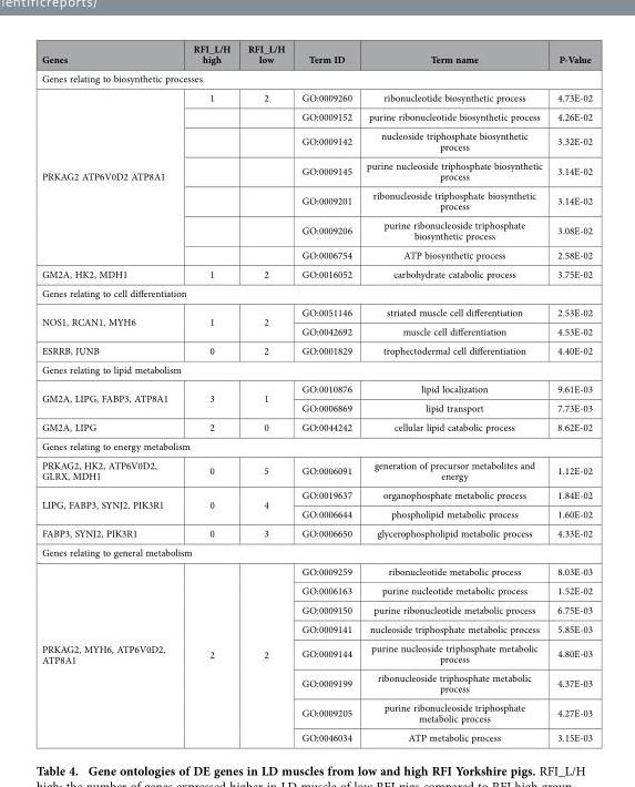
<table><thead><tr><td>Genes</td><td>RFI_L/H high</td><td>RFI_L/H low</td><td>Term ID</td><td>Term name</td><td>P-Value</td></tr></thead><tbody><tr><td colspan="6">Genes relating to biosynthetic processes</td></tr><tr><td rowspan="7">PRKAG2 ATP6V0D2 ATP8A1</td><td>1</td><td>2</td><td>GO:0009260</td><td>ribonucleotide biosynthetic process</td><td>4.73E-02</td></tr><tr><td></td><td></td><td>GO:0009152</td><td>purine ribonucleotide biosynthetic process</td><td>4.26E-02</td></tr><tr><td></td><td></td><td>GO:0009142</td><td>nucleoside triphosphate biosynthetic process</td><td>3.32E-02</td></tr><tr><td></td><td></td><td>GO:0009145</td><td>purine nucleoside triphosphate biosynthetic process</td><td>3.14E-02</td></tr><tr><td></td><td></td><td>GO:0009201</td><td>ribonucleoside triphosphate biosynthetic process</td><td>3.14E-02</td></tr><tr><td></td><td></td><td>GO:0009206</td><td>purine ribonucleoside triphosphate biosynthetic process</td><td>3.08E-02</td></tr><tr><td></td><td></td><td>GO:0006754</td><td>ATP biosynthetic process</td><td>2.58E-02</td></tr><tr><td>GM2A, HK2, MDH1</td><td>1</td><td>2</td><td>GO:0016052</td><td>carbohydrate catabolic process</td><td>3.75E-02</td></tr><tr><td colspan="6">Genes relating to cell differentiation</td></tr><tr><td rowspan="2">NOS1, RCAN1, MYH6</td><td rowspan="2">1</td><td rowspan="2">2</td><td>GO:0051146</td><td>striated muscle cell differentiation</td><td>2.53E-02</td></tr><tr><td>GO:0042692</td><td>muscle cell differentiation</td><td>4.53E-02</td></tr><tr><td>ESRRB, JUNB</td><td>0</td><td>2</td><td>GO:0001829</td><td>trophectodermal cell differentiation</td><td>4.40E-02</td></tr><tr><td colspan="6">Genes relating to lipid metabolism</td></tr><tr><td rowspan="2">GM2A, LIPG, FABP3, ATP8A1</td><td rowspan="2">3</td><td rowspan="2">1</td><td>GO:0010876</td><td>lipid localization</td><td>9.61E-03</td></tr><tr><td>GO:0006869</td><td>lipid transport</td><td>7.73E-03</td></tr><tr><td>GM2A, LIPG</td><td>2</td><td>0</td><td>GO:0044242</td><td>cellular lipid catabolic process</td><td>8.62E-02</td></tr><tr><td colspan="6">Genes relating to energy metabolism</td></tr><tr><td>PRKAG2, HK2, ATP6V0D2, GLRX, MDH1</td><td>0</td><td>5</td><td>GO:0006091</td><td>generation of precursor metabolites and energy</td><td>1.12E-02</td></tr><tr><td rowspan="2">LIPG, FABP3, SYNJ2, PIK3R1</td><td rowspan="2">0</td><td rowspan="2">4</td><td>GO:0019637</td><td>organophosphate metabolic process</td><td>1.84E-02</td></tr><tr><td>GO:0006644</td><td>phospholipid metabolic process</td><td>1.60E-02</td></tr><tr><td>FABP3, SYNJ2, PIK3R1</td><td>0</td><td>3</td><td>GO:0006650</td><td>glycerophospholipid metabolic process</td><td>4.33E-02</td></tr><tr><td colspan="6">Genes relating to general metabolism</td></tr><tr><td rowspan="8">PRKAG2, MYH6, ATP6V0D2, ATP8A1</td><td rowspan="8">2</td><td rowspan="8">2</td><td>GO:0009259</td><td>ribonucleotide metabolic process</td><td>8.03E-03</td></tr><tr><td>GO:0006163</td><td>purine nucleotide metabolic process</td><td>1.52E-02</td></tr><tr><td>GO:0009150</td><td>purine ribonucleotide metabolic process</td><td>6.75E-03</td></tr><tr><td>GO:0009141</td><td>nucleoside triphosphate metabolic process</td><td>5.85E-03</td></tr><tr><td>GO:0009144</td><td>purine nucleoside triphosphate metabolic process</td><td>4.80E-03</td></tr><tr><td>GO:0009199</td><td>ribonucleoside triphosphate metabolic process</td><td>4.37E-03</td></tr><tr><td>GO:0009205</td><td>purine ribonucleoside triphosphate metabolic process</td><td>4.27E-03</td></tr><tr><td>GO:0046034</td><td>ATP metabolic process</td><td>3.15E-03</td></tr></tbody></table>